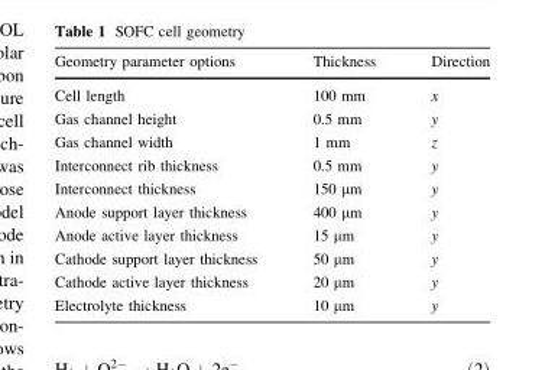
<table><thead><tr><td>Geometry parameter options</td><td>Thickness</td><td>Direction</td></tr></thead><tbody><tr><td>Cell length</td><td>100 mm</td><td>x</td></tr><tr><td>Gas channel height</td><td>0.5 mm</td><td>y</td></tr><tr><td>Gas channel width</td><td>1 mm</td><td>z</td></tr><tr><td>Interconnect rib thickness</td><td>0.5 mm</td><td>y</td></tr><tr><td>Interconnect thickness</td><td>150 μm</td><td>y</td></tr><tr><td>Anode support layer thickness</td><td>400 μm</td><td>y</td></tr><tr><td>Anode active layer thickness</td><td>15 μm</td><td>y</td></tr><tr><td>Cathode support layer thickness</td><td>50 μm</td><td>y</td></tr><tr><td>Cathode active layer thickness</td><td>20 μm</td><td>y</td></tr><tr><td>Electrolyte thickness</td><td>10 μm</td><td>y</td></tr></tbody></table>